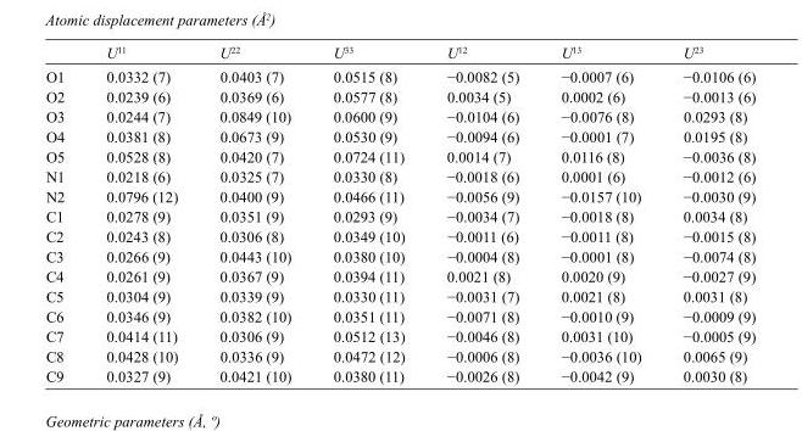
<table><thead><tr><td></td><td>U<sup>11</sup></td><td>U<sup>22</sup></td><td>U<sup>33</sup></td><td>U<sup>12</sup></td><td>U<sup>13</sup></td><td>U<sup>23</sup></td></tr></thead><tbody><tr><td>O1</td><td>0.0332 (7)</td><td>0.0403 (7)</td><td>0.0515 (8)</td><td>−0.0082 (5)</td><td>−0.0007 (6)</td><td>−0.0106 (6)</td></tr><tr><td>O2</td><td>0.0239 (6)</td><td>0.0369 (6)</td><td>0.0577 (8)</td><td>0.0034 (5)</td><td>0.0002 (6)</td><td>−0.0013 (6)</td></tr><tr><td>O3</td><td>0.0244 (7)</td><td>0.0849 (10)</td><td>0.0600 (9)</td><td>−0.0104 (6)</td><td>−0.0076 (8)</td><td>0.0293 (8)</td></tr><tr><td>O4</td><td>0.0381 (8)</td><td>0.0673 (9)</td><td>0.0530 (9)</td><td>−0.0094 (6)</td><td>−0.0001 (7)</td><td>0.0195 (8)</td></tr><tr><td>O5</td><td>0.0528 (8)</td><td>0.0420 (7)</td><td>0.0724 (11)</td><td>0.0014 (7)</td><td>0.0116 (8)</td><td>−0.0036 (8)</td></tr><tr><td>N1</td><td>0.0218 (6)</td><td>0.0325 (7)</td><td>0.0330 (8)</td><td>−0.0018 (6)</td><td>0.0001 (6)</td><td>−0.0012 (6)</td></tr><tr><td>N2</td><td>0.0796 (12)</td><td>0.0400 (9)</td><td>0.0466 (11)</td><td>−0.0056 (9)</td><td>−0.0157 (10)</td><td>−0.0030 (9)</td></tr><tr><td>C1</td><td>0.0278 (9)</td><td>0.0351 (9)</td><td>0.0293 (9)</td><td>−0.0034 (7)</td><td>−0.0018 (8)</td><td>0.0034 (8)</td></tr><tr><td>C2</td><td>0.0243 (8)</td><td>0.0306 (8)</td><td>0.0349 (10)</td><td>−0.0011 (6)</td><td>−0.0011 (8)</td><td>−0.0015 (8)</td></tr><tr><td>C3</td><td>0.0266 (9)</td><td>0.0443 (10)</td><td>0.0380 (10)</td><td>−0.0004 (8)</td><td>−0.0001 (8)</td><td>−0.0074 (8)</td></tr><tr><td>C4</td><td>0.0261 (9)</td><td>0.0367 (9)</td><td>0.0394 (11)</td><td>0.0021 (8)</td><td>0.0020 (9)</td><td>−0.0027 (9)</td></tr><tr><td>C5</td><td>0.0304 (9)</td><td>0.0339 (9)</td><td>0.0330 (11)</td><td>−0.0031 (7)</td><td>0.0021 (8)</td><td>0.0031 (8)</td></tr><tr><td>C6</td><td>0.0346 (9)</td><td>0.0382 (10)</td><td>0.0351 (11)</td><td>−0.0071 (8)</td><td>−0.0010 (9)</td><td>−0.0009 (9)</td></tr><tr><td>C7</td><td>0.0414 (11)</td><td>0.0306 (9)</td><td>0.0512 (13)</td><td>−0.0046 (8)</td><td>0.0031 (10)</td><td>−0.0005 (9)</td></tr><tr><td>C8</td><td>0.0428 (10)</td><td>0.0336 (9)</td><td>0.0472 (12)</td><td>−0.0006 (8)</td><td>−0.0036 (10)</td><td>0.0065 (9)</td></tr><tr><td>C9</td><td>0.0327 (9)</td><td>0.0421 (10)</td><td>0.0380 (11)</td><td>−0.0026 (8)</td><td>−0.0042 (9)</td><td>0.0030 (8)</td></tr></tbody></table>